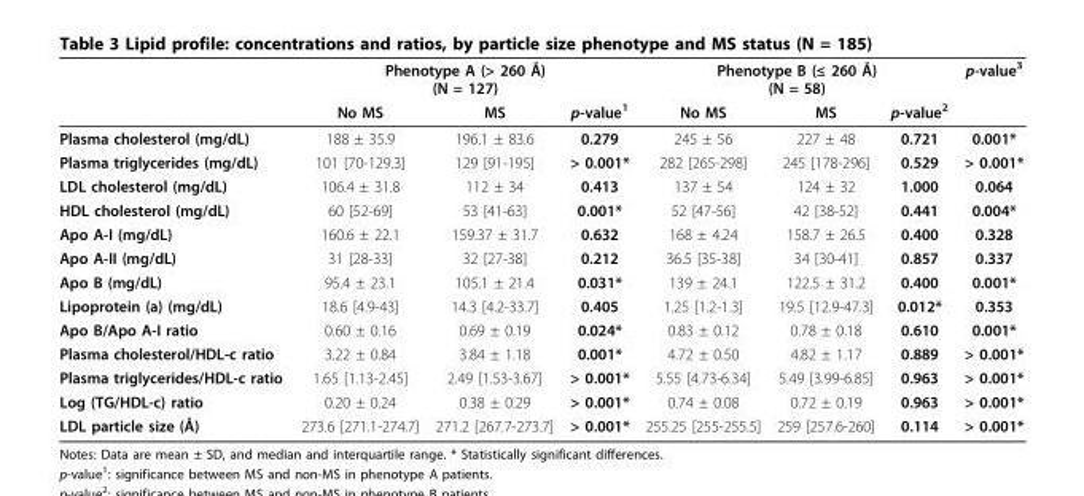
<table><thead><tr><td rowspan="2"></td><td colspan="3">Phenotype A (&gt; 260 Å) (N = 127)</td><td colspan="3">Phenotype B (≤ 260 Å) (N = 58)</td><td rowspan="2">p-value<sup>3</sup></td></tr><tr><td>No MS</td><td>MS</td><td>p-value<sup>1</sup></td><td>No MS</td><td>MS</td><td>p-value<sup>2</sup></td></tr></thead><tbody><tr><td>Plasma cholesterol (mg/dL)</td><td>188 ± 35.9</td><td>196.1 ± 83.6</td><td>0.279</td><td>245 ± 56</td><td>227 ± 48</td><td>0.721</td><td>0.001*</td></tr><tr><td>Plasma triglycerides (mg/dL)</td><td>101 [70-129.3]</td><td>129 [91-195]</td><td>&gt; 0.001*</td><td>282 [265-298]</td><td>245 [178-296]</td><td>0.529</td><td>&gt; 0.001*</td></tr><tr><td>LDL cholesterol (mg/dL)</td><td>106.4 ± 31.8</td><td>112 ± 34</td><td>0.413</td><td>137 ± 54</td><td>124 ± 32</td><td>1.000</td><td>0.064</td></tr><tr><td>HDL cholesterol (mg/dL)</td><td>60 [52-69]</td><td>53 [41-63]</td><td>0.001*</td><td>52 [47-56]</td><td>42 [38-52]</td><td>0.441</td><td>0.004*</td></tr><tr><td>Apo A-I (mg/dL)</td><td>160.6 ± 22.1</td><td>159.37 ± 31.7</td><td>0.632</td><td>168 ± 4.24</td><td>158.7 ± 26.5</td><td>0.400</td><td>0.328</td></tr><tr><td>Apo A-II (mg/dL)</td><td>31 [28-33]</td><td>32 [27-38]</td><td>0.212</td><td>36.5 [35-38]</td><td>34 [30-41]</td><td>0.857</td><td>0.337</td></tr><tr><td>Apo B (mg/dL)</td><td>95.4 ± 23.1</td><td>105.1 ± 21.4</td><td>0.031*</td><td>139 ± 24.1</td><td>122.5 ± 31.2</td><td>0.400</td><td>0.001*</td></tr><tr><td>Lipoprotein (a) (mg/dL)</td><td>18.6 [4.9-43]</td><td>14.3 [4.2-33.7]</td><td>0.405</td><td>1.25 [1.2-1.3]</td><td>19.5 [12.9-47.3]</td><td>0.012*</td><td>0.353</td></tr><tr><td>Apo B/Apo A-I ratio</td><td>0.60 ± 0.16</td><td>0.69 ± 0.19</td><td>0.024*</td><td>0.83 ± 0.12</td><td>0.78 ± 0.18</td><td>0.610</td><td>0.001*</td></tr><tr><td>Plasma cholesterol/HDL-c ratio</td><td>3.22 ± 0.84</td><td>3.84 ± 1.18</td><td>0.001*</td><td>4.72 ± 0.50</td><td>4.82 ± 1.17</td><td>0.889</td><td>&gt; 0.001*</td></tr><tr><td>Plasma triglycerides/HDL-c ratio</td><td>1.65 [1.13-2.45]</td><td>2.49 [1.53-3.67]</td><td>&gt; 0.001*</td><td>5.55 [4.73-6.34]</td><td>5.49 [3.99-6.85]</td><td>0.963</td><td>&gt; 0.001*</td></tr><tr><td>Log (TG/HDL-c) ratio</td><td>0.20 ± 0.24</td><td>0.38 ± 0.29</td><td>&gt; 0.001*</td><td>0.74 ± 0.08</td><td>0.72 ± 0.19</td><td>0.963</td><td>&gt; 0.001*</td></tr><tr><td>LDL particle size (Å)</td><td>273.6 [271.1-274.7]</td><td>271.2 [267.7-273.7]</td><td>&gt; 0.001*</td><td>255.25 [255-255.5]</td><td>259 [257.6-260]</td><td>0.114</td><td>&gt; 0.001*</td></tr></tbody></table>